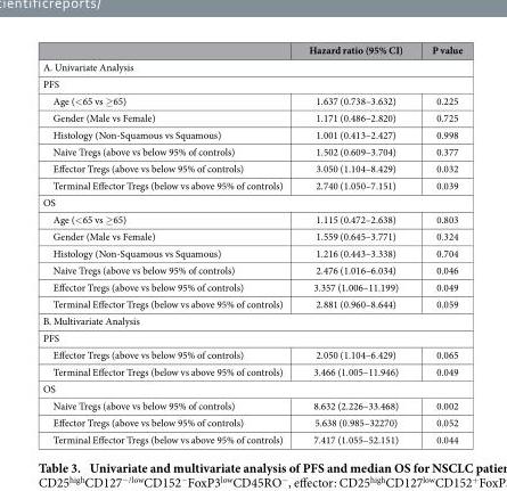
<table><thead><tr><td></td><td>Hazard ratio (95% CI)</td><td>P value</td></tr></thead><tbody><tr><td colspan="3">A. Univariate Analysis</td></tr><tr><td colspan="3">PFS</td></tr><tr><td>Age (&lt; 65 vs ≥ 65)</td><td>1.637 (0.738–3.632)</td><td>0.225</td></tr><tr><td>Gender (Male vs Female)</td><td>1.171 (0.486–2.820)</td><td>0.725</td></tr><tr><td>Histology (Non-Squamous vs Squamous)</td><td>1.001 (0.413–2.427)</td><td>0.998</td></tr><tr><td>Naive Tregs (above vs below 95% of controls)</td><td>1.502 (0.609–3.704)</td><td>0.377</td></tr><tr><td>Effector Tregs (above vs below 95% of controls)</td><td>3.050 (1.104–8.429)</td><td>0.032</td></tr><tr><td>Terminal Effector Tregs (below vs above 95% of controls)</td><td>2.740 (1.050–7.151)</td><td>0.039</td></tr><tr><td colspan="3">OS</td></tr><tr><td>Age (&lt; 65 vs ≥ 65)</td><td>1.115 (0.472–2.638)</td><td>0.803</td></tr><tr><td>Gender (Male vs Female)</td><td>1.559 (0.645–3.771)</td><td>0.324</td></tr><tr><td>Histology (Non-Squamous vs Squamous)</td><td>1.216 (0.443–3.338)</td><td>0.704</td></tr><tr><td>Naive Tregs (above vs below 95% of controls)</td><td>2.476 (1.016–6.034)</td><td>0.046</td></tr><tr><td>Effector Tregs (above vs below 95% of controls)</td><td>3.357 (1.006–11.199)</td><td>0.049</td></tr><tr><td>Terminal Effector Tregs (below vs above 95% of controls)</td><td>2.881 (0.960–8.644)</td><td>0.059</td></tr><tr><td colspan="3">B. Multivariate Analysis</td></tr><tr><td colspan="3">PFS</td></tr><tr><td>Effector Tregs (above vs below 95% of controls)</td><td>2.050 (1.104–6.429)</td><td>0.065</td></tr><tr><td>Terminal Effector Tregs (below vs above 95% of controls)</td><td>3.466 (1.005–11.946)</td><td>0.049</td></tr><tr><td colspan="3">OS</td></tr><tr><td>Naive Tregs (above vs below 95% of controls)</td><td>8.632 (2.226–33.468)</td><td>0.002</td></tr><tr><td>Effector Tregs (above vs below 95% of controls)</td><td>5.638 (0.985–32270)</td><td>0.052</td></tr><tr><td>Terminal Effector Tregs (below vs above 95% of controls)</td><td>7.417 (1.055–52.151)</td><td>0.044</td></tr></tbody></table>